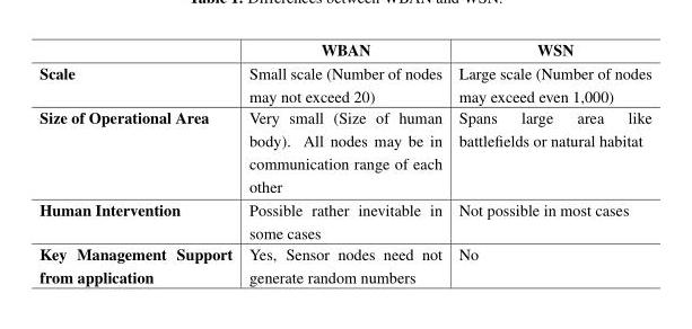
<table><thead><tr><td></td><td>WBAN</td><td>WSN</td></tr></thead><tbody><tr><td>Scale</td><td>Small scale (Number of nodes may not exceed 20)</td><td>Large scale (Number of nodes may exceed even 1,000)</td></tr><tr><td>Size of Operational Area</td><td>Very small (Size of human body). All nodes may be in communication range of each other</td><td>Spans large area like battlefields or natural habitat</td></tr><tr><td>Human Intervention</td><td>Possible rather inevitable in some cases</td><td>Not possible in most cases</td></tr><tr><td>Key Management Support from application</td><td>Yes, Sensor nodes need not generate random numbers</td><td>No</td></tr></tbody></table>